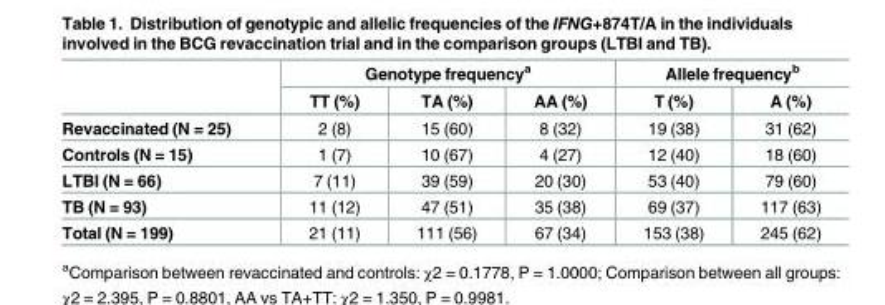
<table><thead><tr><td rowspan="2"></td><td colspan="3">Genotype frequency<sup>a</sup></td><td colspan="2">Allele frequency<sup>b</sup></td></tr><tr><td>TT (%)</td><td>TA (%)</td><td>AA (%)</td><td>T (%)</td><td>A (%)</td></tr></thead><tbody><tr><td>Revaccinated (N = 25)</td><td>2 (8)</td><td>15 (60)</td><td>8 (32)</td><td>19 (38)</td><td>31 (62)</td></tr><tr><td>Controls (N = 15)</td><td>1 (7)</td><td>10 (67)</td><td>4 (27)</td><td>12 (40)</td><td>18 (60)</td></tr><tr><td>LTBI (N = 66)</td><td>7 (11)</td><td>39 (59)</td><td>20 (30)</td><td>53 (40)</td><td>79 (60)</td></tr><tr><td>TB (N = 93)</td><td>11 (12)</td><td>47 (51)</td><td>35 (38)</td><td>69 (37)</td><td>117 (63)</td></tr><tr><td>Total (N = 199)</td><td>21 (11)</td><td>111 (56)</td><td>67 (34)</td><td>153 (38)</td><td>245 (62)</td></tr></tbody></table>